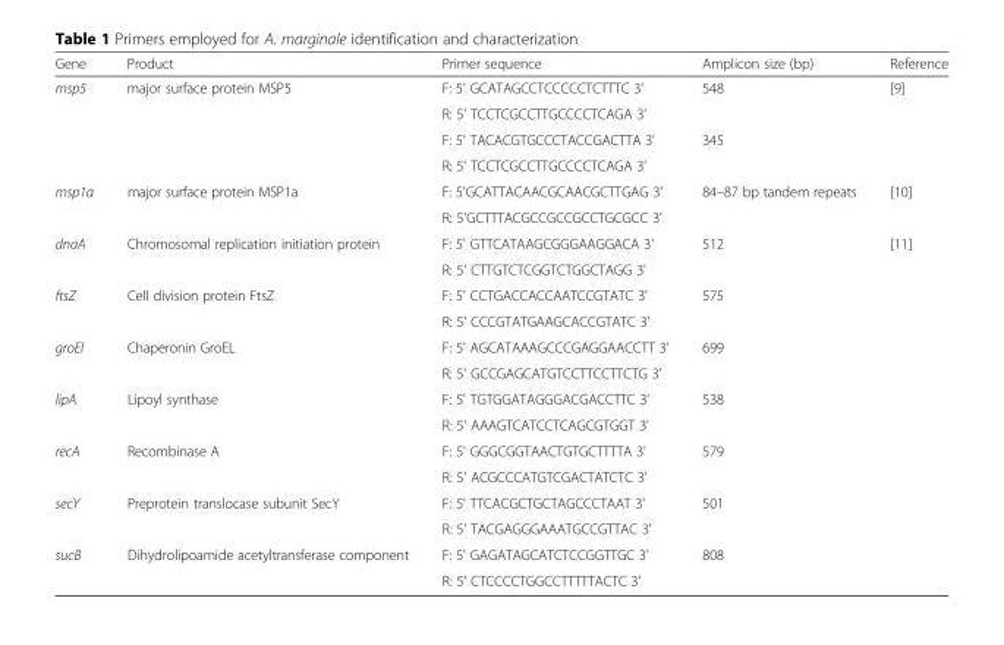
<table><thead><tr><td>Gene</td><td>Product</td><td>Primer sequence</td><td>Amplicon size (bp)</td><td>Reference</td></tr></thead><tbody><tr><td rowspan="4">msp5</td><td rowspan="4">major surface protein MSP5</td><td>F: 5&#x27; GCATAGCCTCCCCCTCTTTC 3&#x27;</td><td rowspan="2">548</td><td rowspan="4">[9]</td></tr><tr><td>R: 5&#x27; TCCTCGCCTTGCCCCTCAGA 3&#x27;</td></tr><tr><td>F: 5&#x27; TACACGTGCCCTACCGACTTA 3&#x27;</td><td rowspan="2">345</td></tr><tr><td>R: 5&#x27; TCCTCGCCTTGCCCCTCAGA 3&#x27;</td></tr><tr><td rowspan="2">msp1α</td><td rowspan="2">major surface protein MSP1a</td><td>F: 5&#x27;GCATTACAACGCAACGCTTGAG 3&#x27;</td><td rowspan="2">84–87 bp tandem repeats</td><td rowspan="2">[10]</td></tr><tr><td>R: 5&#x27;GCTTTACGCCGCCGCCTGCGCC 3&#x27;</td></tr><tr><td rowspan="2">dnaA</td><td rowspan="2">Chromosomal replication initiation protein</td><td>F: 5&#x27; GTTCATAAGCGGGAAGGACA 3&#x27;</td><td rowspan="2">512</td><td rowspan="14">[11]</td></tr><tr><td>R: 5&#x27; CTTGTCTCGGTCTGGCTAGG 3&#x27;</td></tr><tr><td rowspan="2">ftsZ</td><td rowspan="2">Cell division protein FtsZ</td><td>F: 5&#x27; CCTGACCACCAATCCGTATC 3&#x27;</td><td rowspan="2">575</td></tr><tr><td>R: 5&#x27; CCCGTATGAAGCACCGTATC 3&#x27;</td></tr><tr><td rowspan="2">groEl</td><td rowspan="2">Chaperonin GroEL</td><td>F: 5&#x27; AGCATAAAGCCCGAGGAACCTT 3&#x27;</td><td rowspan="2">699</td></tr><tr><td>R: 5&#x27; GCCGAGCATGTCCTTCCTTCTG 3&#x27;</td></tr><tr><td rowspan="2">lipA</td><td rowspan="2">Lipoyl synthase</td><td>F: 5&#x27; TGTGGATAGGGACGACCTTC 3&#x27;</td><td rowspan="2">538</td></tr><tr><td>R: 5&#x27; AAAGTCATCCTCAGCGTGGT 3&#x27;</td></tr><tr><td rowspan="2">recA</td><td rowspan="2">Recombinase A</td><td>F: 5&#x27; GGGCGGTAACTGTGCTTTTA 3&#x27;</td><td rowspan="2">579</td></tr><tr><td>R: 5&#x27; ACGCCCATGTCGACTATCTC 3&#x27;</td></tr><tr><td rowspan="2">secY</td><td rowspan="2">Preprotein translocase subunit SecY</td><td>F: 5&#x27; TTCACGCTGCTAGCCCTAAT 3&#x27;</td><td rowspan="2">501</td></tr><tr><td>R: 5&#x27; TACGAGGGAAATGCCGTTAC 3&#x27;</td></tr><tr><td rowspan="2">sucB</td><td rowspan="2">Dihydrolipoamide acetyltransferase component</td><td>F: 5&#x27; GAGATAGCATCTCCGGTTGC 3&#x27;</td><td rowspan="2">808</td></tr><tr><td>R: 5&#x27; CTCCCCTGGCCTTTTTACTC 3&#x27;</td></tr></tbody></table>